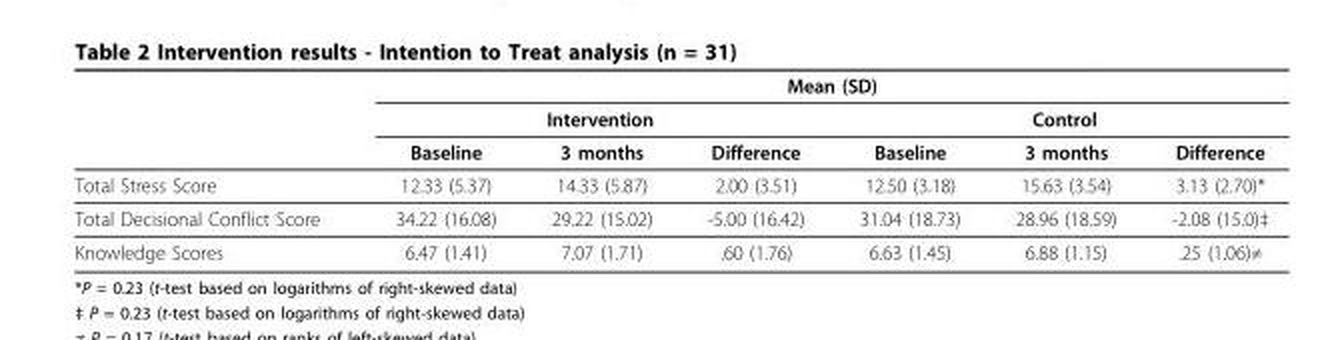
<table><thead><tr><td rowspan="3"></td><td colspan="6">Mean (SD)</td></tr><tr><td colspan="3">Intervention</td><td colspan="3">Control</td></tr><tr><td>Baseline</td><td>3 months</td><td>Difference</td><td>Baseline</td><td>3 months</td><td>Difference</td></tr></thead><tbody><tr><td>Total Stress Score</td><td>12.33 (5.37)</td><td>14.33 (5.87)</td><td>2.00 (3.51)</td><td>12.50 (3.18)</td><td>15.63 (3.54)</td><td>3.13 (2.70)*</td></tr><tr><td>Total Decisional Conflict Score</td><td>34.22 (16.08)</td><td>29.22 (15.02)</td><td>-5.00 (16.42)</td><td>31.04 (18.73)</td><td>28.96 (18.59)</td><td>-2.08 (15.0)‡</td></tr><tr><td>Knowledge Scores</td><td>6.47 (1.41)</td><td>7.07 (1.71)</td><td>.60 (1.76)</td><td>6.63 (1.45)</td><td>6.88 (1.15)</td><td>.25 (1.06)≠</td></tr></tbody></table>